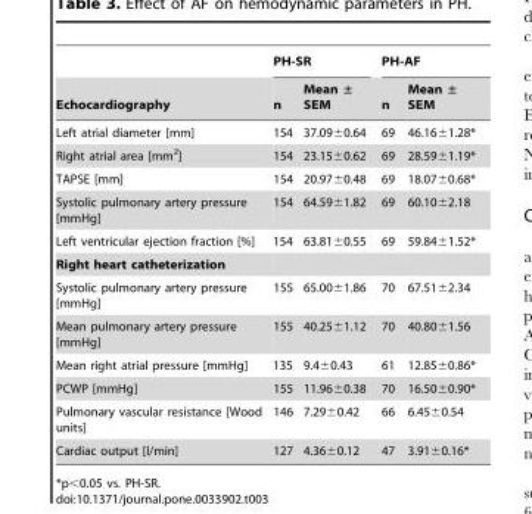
<table><thead><tr><td rowspan="2">Echocardiography</td><td colspan="2">PH-SR</td><td colspan="2">PH-AF</td></tr><tr><td>n</td><td>Mean ± SEM</td><td>n</td><td>Mean ± SEM</td></tr></thead><tbody><tr><td>Left atrial diameter [mm]</td><td>154</td><td>37.09±0.64</td><td>69</td><td>46.16±1.28*</td></tr><tr><td>Right atrial area [mm<sup>2</sup>]</td><td>154</td><td>23.15±0.62</td><td>69</td><td>28.59±1.19*</td></tr><tr><td>TAPSE [mm]</td><td>154</td><td>20.97±0.48</td><td>69</td><td>18.07±0.68*</td></tr><tr><td>Systolic pulmonary artery pressure [mmHg]</td><td>154</td><td>64.59±1.82</td><td>69</td><td>60.10±2.18</td></tr><tr><td>Left ventricular ejection fraction [%]</td><td>154</td><td>63.81±0.55</td><td>69</td><td>59.84±1.52*</td></tr><tr><td colspan="5">Right heart catheterization</td></tr><tr><td>Systolic pulmonary artery pressure [mmHg]</td><td>155</td><td>65.00±1.86</td><td>70</td><td>67.51±2.34</td></tr><tr><td>Mean pulmonary artery pressure [mmHg]</td><td>155</td><td>40.25±1.12</td><td>70</td><td>40.80±1.56</td></tr><tr><td>Mean right atrial pressure [mmHg]</td><td>135</td><td>9.4±0.43</td><td>61</td><td>12.85±0.86*</td></tr><tr><td>PCWP [mmHg]</td><td>155</td><td>11.96±0.38</td><td>70</td><td>16.50±0.90*</td></tr><tr><td>Pulmonary vascular resistance [Wood units]</td><td>146</td><td>7.29±0.42</td><td>66</td><td>6.45±0.54</td></tr><tr><td>Cardiac output [l/min]</td><td>127</td><td>4.36±0.12</td><td>47</td><td>3.91±0.16*</td></tr></tbody></table>